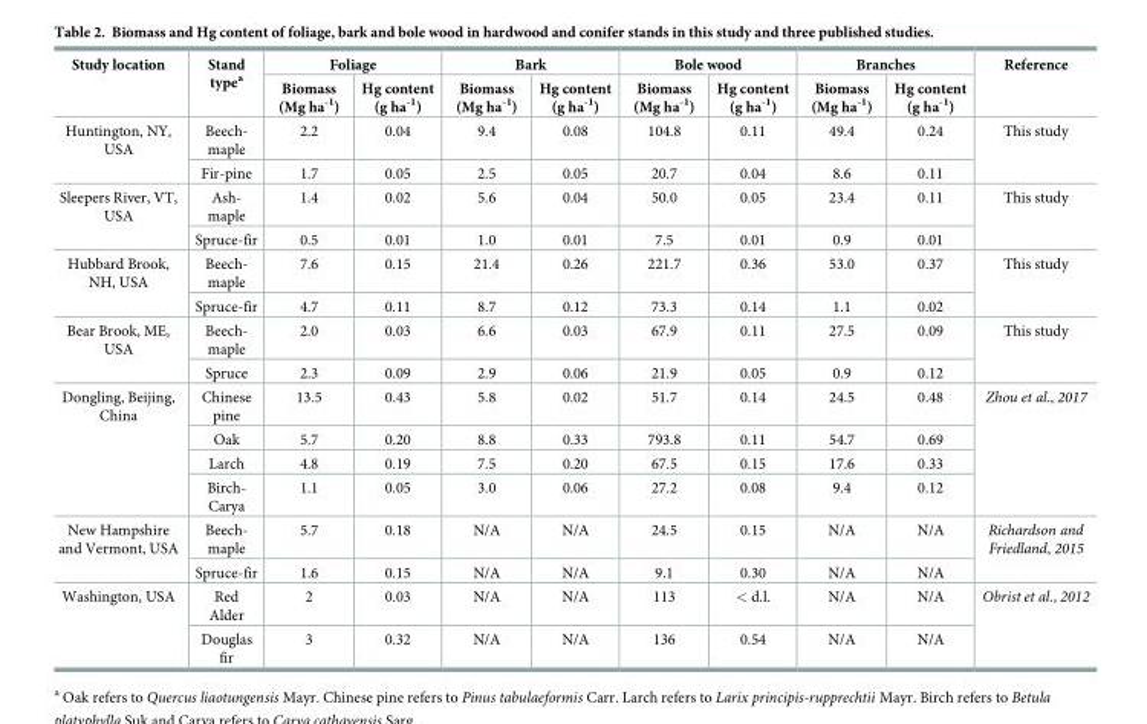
<table><thead><tr><td rowspan="2">Study location</td><td rowspan="2">Stand type<sup>a</sup></td><td colspan="2">Foliage</td><td colspan="2">Bark</td><td colspan="2">Bole wood</td><td colspan="2">Branches</td><td rowspan="2">Reference</td></tr><tr><td>Biomass (Mg ha<sup>-1</sup>)</td><td>Hg content (g ha<sup>-1</sup>)</td><td>Biomass (Mg ha<sup>-1</sup>)</td><td>Hg content (g ha<sup>-1</sup>)</td><td>Biomass (Mg ha<sup>-1</sup>)</td><td>Hg content (g ha<sup>-1</sup>)</td><td>Biomass (Mg ha<sup>-1</sup>)</td><td>Hg content (g ha<sup>-1</sup>)</td></tr></thead><tbody><tr><td rowspan="2">Huntington, NY, USA</td><td>Beech- maple</td><td>2.2</td><td>0.04</td><td>9.4</td><td>0.08</td><td>104.8</td><td>0.11</td><td>49.4</td><td>0.24</td><td rowspan="2">This study</td></tr><tr><td>Fir-pine</td><td>1.7</td><td>0.05</td><td>2.5</td><td>0.05</td><td>20.7</td><td>0.04</td><td>8.6</td><td>0.11</td></tr><tr><td rowspan="2">Sleepers River, VT, USA</td><td>Ash- maple</td><td>1.4</td><td>0.02</td><td>5.6</td><td>0.04</td><td>50.0</td><td>0.05</td><td>23.4</td><td>0.11</td><td rowspan="2">This study</td></tr><tr><td>Spruce-fir</td><td>0.5</td><td>0.01</td><td>1.0</td><td>0.01</td><td>7.5</td><td>0.01</td><td>0.9</td><td>0.01</td></tr><tr><td rowspan="2">Hubbard Brook, NH, USA</td><td>Beech- maple</td><td>7.6</td><td>0.15</td><td>21.4</td><td>0.26</td><td>221.7</td><td>0.36</td><td>53.0</td><td>0.37</td><td rowspan="2">This study</td></tr><tr><td>Spruce-fir</td><td>4.7</td><td>0.11</td><td>8.7</td><td>0.12</td><td>73.3</td><td>0.14</td><td>1.1</td><td>0.02</td></tr><tr><td rowspan="2">Bear Brook, ME, USA</td><td>Beech- maple</td><td>2.0</td><td>0.03</td><td>6.6</td><td>0.03</td><td>67.9</td><td>0.11</td><td>27.5</td><td>0.09</td><td rowspan="2">This study</td></tr><tr><td>Spruce</td><td>2.3</td><td>0.09</td><td>2.9</td><td>0.06</td><td>21.9</td><td>0.05</td><td>0.9</td><td>0.12</td></tr><tr><td rowspan="4">Dongling, Beijing, China</td><td>Chinese pine</td><td>13.5</td><td>0.43</td><td>5.8</td><td>0.02</td><td>51.7</td><td>0.14</td><td>24.5</td><td>0.48</td><td rowspan="4">Zhou et al., 2017</td></tr><tr><td>Oak</td><td>5.7</td><td>0.20</td><td>8.8</td><td>0.33</td><td>793.8</td><td>0.11</td><td>54.7</td><td>0.69</td></tr><tr><td>Larch</td><td>4.8</td><td>0.19</td><td>7.5</td><td>0.20</td><td>67.5</td><td>0.15</td><td>17.6</td><td>0.33</td></tr><tr><td>Birch- Carya</td><td>1.1</td><td>0.05</td><td>3.0</td><td>0.06</td><td>27.2</td><td>0.08</td><td>9.4</td><td>0.12</td></tr><tr><td rowspan="2">New Hampshire and Vermont, USA</td><td>Beech- maple</td><td>5.7</td><td>0.18</td><td>N/A</td><td>N/A</td><td>24.5</td><td>0.15</td><td>N/A</td><td>N/A</td><td rowspan="2">Richardson and Friedland, 2015</td></tr><tr><td>Spruce-fir</td><td>1.6</td><td>0.15</td><td>N/A</td><td>N/A</td><td>9.1</td><td>0.30</td><td>N/A</td><td>N/A</td></tr><tr><td rowspan="2">Washington, USA</td><td>Red Alder</td><td>2</td><td>0.03</td><td>N/A</td><td>N/A</td><td>113</td><td>&lt; d.l.</td><td>N/A</td><td>N/A</td><td rowspan="2">Obrist et al., 2012</td></tr><tr><td>Douglas fir</td><td>3</td><td>0.32</td><td>N/A</td><td>N/A</td><td>136</td><td>0.54</td><td>N/A</td><td>N/A</td></tr></tbody></table>